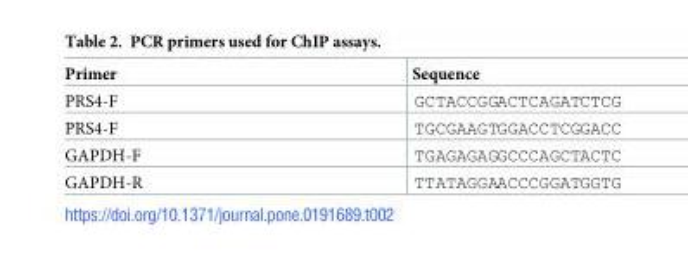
<table><thead><tr><td>Primer</td><td>Sequence</td></tr></thead><tbody><tr><td>PRS4-F</td><td>GCTACCGGACTCAGATCTCG</td></tr><tr><td>PRS4-F</td><td>TGCGAAGTGGACCTCGGACC</td></tr><tr><td>GAPDH-F</td><td>TGAGAGAGGCCCAGCTACTC</td></tr><tr><td>GAPDH-R</td><td>TTATAGGAACCCGGATGGTG</td></tr></tbody></table>